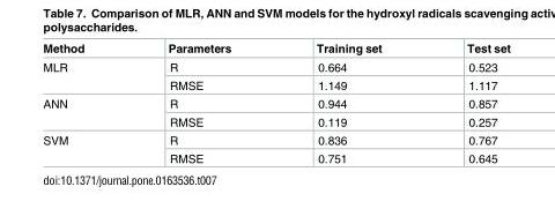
<table><thead><tr><td>Method</td><td>Parameters</td><td>Training set</td><td>Test set</td></tr></thead><tbody><tr><td rowspan="2">MLR</td><td>R</td><td>0.664</td><td>0.523</td></tr><tr><td>RMSE</td><td>1.149</td><td>1.117</td></tr><tr><td rowspan="2">ANN</td><td>R</td><td>0.944</td><td>0.857</td></tr><tr><td>RMSE</td><td>0.119</td><td>0.257</td></tr><tr><td rowspan="2">SVM</td><td>R</td><td>0.836</td><td>0.767</td></tr><tr><td>RMSE</td><td>0.751</td><td>0.645</td></tr></tbody></table>